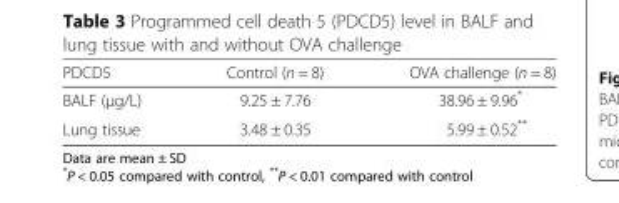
<table><thead><tr><td>PDCD5</td><td>Control (n = 8)</td><td>OVA challenge (n = 8)</td></tr></thead><tbody><tr><td>BALF (μg/L)</td><td>9.25 ± 7.76</td><td>38.96 ± 9.96*</td></tr><tr><td>Lung tissue</td><td>3.48 ± 0.35</td><td>5.99 ± 0.52**</td></tr></tbody></table>